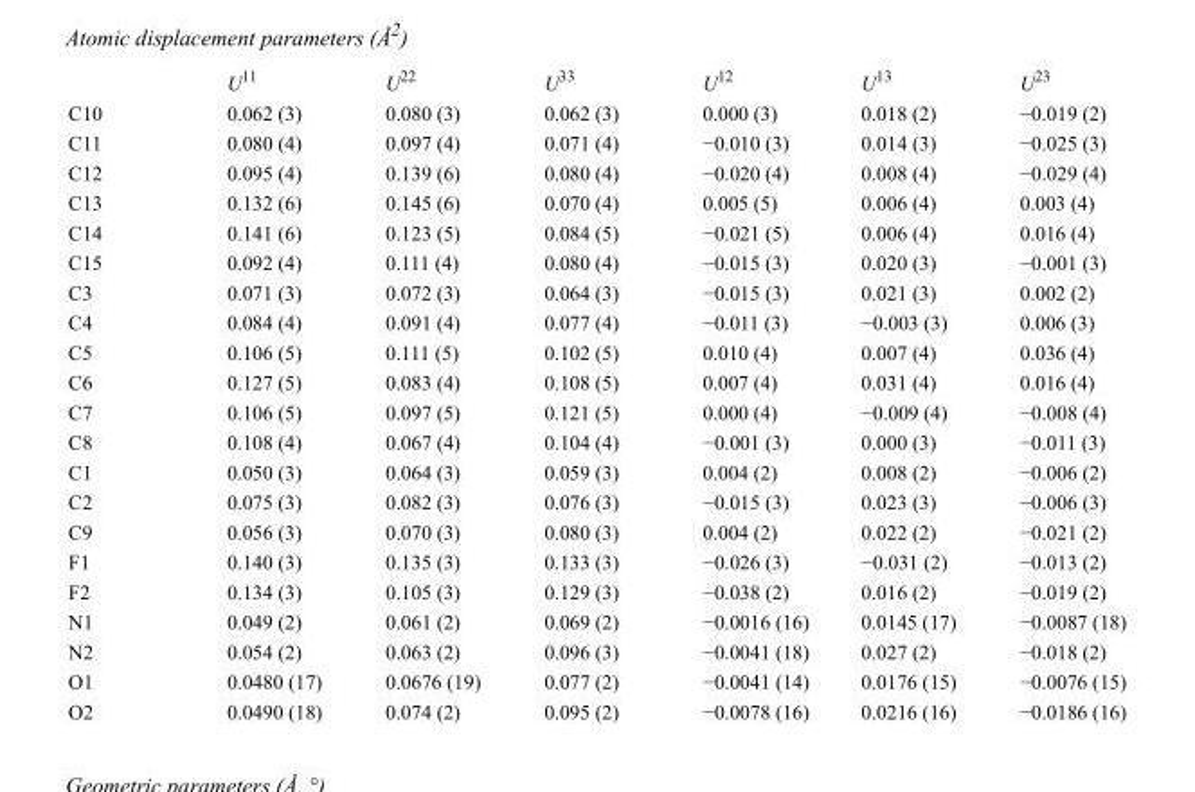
<table><thead><tr><td></td><td>U<sup>11</sup></td><td>U<sup>22</sup></td><td>U<sup>33</sup></td><td>U<sup>12</sup></td><td>U<sup>13</sup></td><td>U<sup>23</sup></td></tr></thead><tbody><tr><td>C10</td><td>0.062 (3)</td><td>0.080 (3)</td><td>0.062 (3)</td><td>0.000 (3)</td><td>0.018 (2)</td><td>−0.019 (2)</td></tr><tr><td>C11</td><td>0.080 (4)</td><td>0.097 (4)</td><td>0.071 (4)</td><td>−0.010 (3)</td><td>0.014 (3)</td><td>−0.025 (3)</td></tr><tr><td>C12</td><td>0.095 (4)</td><td>0.139 (6)</td><td>0.080 (4)</td><td>−0.020 (4)</td><td>0.008 (4)</td><td>−0.029 (4)</td></tr><tr><td>C13</td><td>0.132 (6)</td><td>0.145 (6)</td><td>0.070 (4)</td><td>0.005 (5)</td><td>0.006 (4)</td><td>0.003 (4)</td></tr><tr><td>C14</td><td>0.141 (6)</td><td>0.123 (5)</td><td>0.084 (5)</td><td>−0.021 (5)</td><td>0.006 (4)</td><td>0.016 (4)</td></tr><tr><td>C15</td><td>0.092 (4)</td><td>0.111 (4)</td><td>0.080 (4)</td><td>−0.015 (3)</td><td>0.020 (3)</td><td>−0.001 (3)</td></tr><tr><td>C3</td><td>0.071 (3)</td><td>0.072 (3)</td><td>0.064 (3)</td><td>−0.015 (3)</td><td>0.021 (3)</td><td>0.002 (2)</td></tr><tr><td>C4</td><td>0.084 (4)</td><td>0.091 (4)</td><td>0.077 (4)</td><td>−0.011 (3)</td><td>−0.003 (3)</td><td>0.006 (3)</td></tr><tr><td>C5</td><td>0.106 (5)</td><td>0.111 (5)</td><td>0.102 (5)</td><td>0.010 (4)</td><td>0.007 (4)</td><td>0.036 (4)</td></tr><tr><td>C6</td><td>0.127 (5)</td><td>0.083 (4)</td><td>0.108 (5)</td><td>0.007 (4)</td><td>0.031 (4)</td><td>0.016 (4)</td></tr><tr><td>C7</td><td>0.106 (5)</td><td>0.097 (5)</td><td>0.121 (5)</td><td>0.000 (4)</td><td>−0.009 (4)</td><td>−0.008 (4)</td></tr><tr><td>C8</td><td>0.108 (4)</td><td>0.067 (4)</td><td>0.104 (4)</td><td>−0.001 (3)</td><td>0.000 (3)</td><td>−0.011 (3)</td></tr><tr><td>C1</td><td>0.050 (3)</td><td>0.064 (3)</td><td>0.059 (3)</td><td>0.004 (2)</td><td>0.008 (2)</td><td>−0.006 (2)</td></tr><tr><td>C2</td><td>0.075 (3)</td><td>0.082 (3)</td><td>0.076 (3)</td><td>−0.015 (3)</td><td>0.023 (3)</td><td>−0.006 (3)</td></tr><tr><td>C9</td><td>0.056 (3)</td><td>0.070 (3)</td><td>0.080 (3)</td><td>0.004 (2)</td><td>0.022 (2)</td><td>−0.021 (2)</td></tr><tr><td>F1</td><td>0.140 (3)</td><td>0.135 (3)</td><td>0.133 (3)</td><td>−0.026 (3)</td><td>−0.031 (2)</td><td>−0.013 (2)</td></tr><tr><td>F2</td><td>0.134 (3)</td><td>0.105 (3)</td><td>0.129 (3)</td><td>−0.038 (2)</td><td>0.016 (2)</td><td>−0.019 (2)</td></tr><tr><td>N1</td><td>0.049 (2)</td><td>0.061 (2)</td><td>0.069 (2)</td><td>−0.0016 (16)</td><td>0.0145 (17)</td><td>−0.0087 (18)</td></tr><tr><td>N2</td><td>0.054 (2)</td><td>0.063 (2)</td><td>0.096 (3)</td><td>−0.0041 (18)</td><td>0.027 (2)</td><td>−0.018 (2)</td></tr><tr><td>O1</td><td>0.0480 (17)</td><td>0.0676 (19)</td><td>0.077 (2)</td><td>−0.0041 (14)</td><td>0.0176 (15)</td><td>−0.0076 (15)</td></tr><tr><td>O2</td><td>0.0490 (18)</td><td>0.074 (2)</td><td>0.095 (2)</td><td>−0.0078 (16)</td><td>0.0216 (16)</td><td>−0.0186 (16)</td></tr></tbody></table>